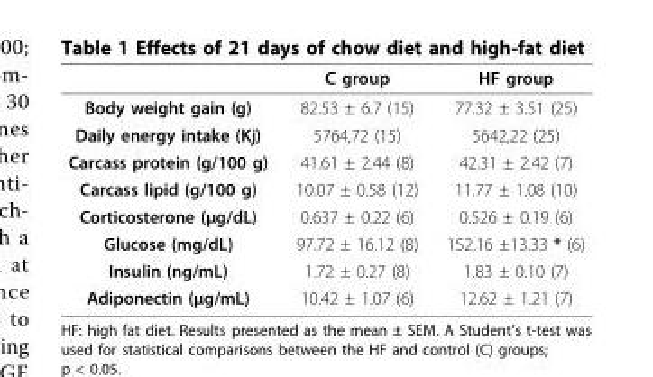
<table><thead><tr><td></td><td>C group</td><td>HF group</td></tr></thead><tbody><tr><td>Body weight gain (g)</td><td>82.53 ± 6.7 (15)</td><td>77.32 ± 3.51 (25)</td></tr><tr><td>Daily energy intake (Kj)</td><td>5764,72 (15)</td><td>5642,22 (25)</td></tr><tr><td>Carcass protein (g/100 g)</td><td>41.61 ± 2.44 (8)</td><td>42.31 ± 2.42 (7)</td></tr><tr><td>Carcass lipid (g/100 g)</td><td>10.07 ± 0.58 (12)</td><td>11.77 ± 1.08 (10)</td></tr><tr><td>Corticosterone (μg/dL)</td><td>0.637 ± 0.22 (6)</td><td>0.526 ± 0.19 (6)</td></tr><tr><td>Glucose (mg/dL)</td><td>97.72 ± 16.12 (8)</td><td>152.16 ±13.33 * (6)</td></tr><tr><td>Insulin (ng/mL)</td><td>1.72 ± 0.27 (8)</td><td>1.83 ± 0.10 (7)</td></tr><tr><td>Adiponectin (μg/mL)</td><td>10.42 ± 1.07 (6)</td><td>12.62 ± 1.21 (7)</td></tr></tbody></table>